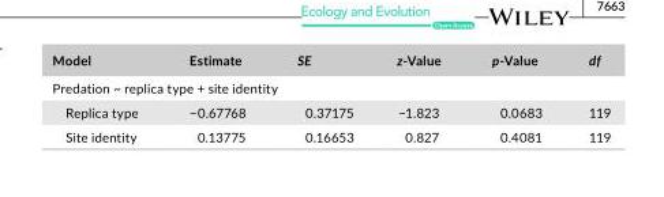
<table><thead><tr><td>Model</td><td>Estimate</td><td>SE</td><td>z- Value</td><td>p- Value</td><td>df</td></tr></thead><tbody><tr><td colspan="6">Predation ~ replica type + site identity</td></tr><tr><td>Replica type</td><td>−0.67768</td><td>0.37175</td><td>−1.823</td><td>0.0683</td><td>119</td></tr><tr><td>Site identity</td><td>0.13775</td><td>0.16653</td><td>0.827</td><td>0.4081</td><td>119</td></tr></tbody></table>